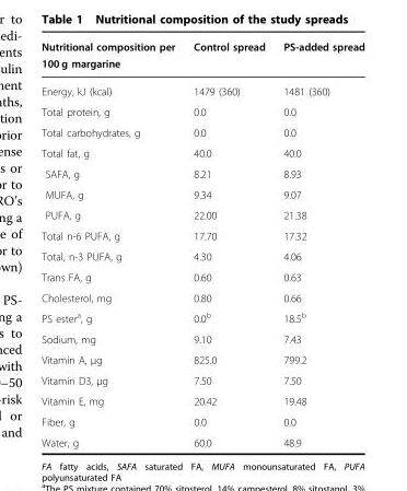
<table><thead><tr><td>Nutritional composition per 100 g margarine</td><td>Control spread</td><td>PS-added spread</td></tr></thead><tbody><tr><td>Energy, kJ (kcal)</td><td>1479 (360)</td><td>1481 (360)</td></tr><tr><td>Total protein, g</td><td>0.0</td><td>0.0</td></tr><tr><td>Total carbohydrates, g</td><td>0.0</td><td>0.0</td></tr><tr><td>Total fat, g</td><td>40.0</td><td>40.0</td></tr><tr><td>SAFA, g</td><td>8.21</td><td>8.93</td></tr><tr><td>MUFA, g</td><td>9.34</td><td>9.07</td></tr><tr><td>PUFA, g</td><td>22.00</td><td>21.38</td></tr><tr><td>Total n-6 PUFA, g</td><td>17.70</td><td>17.32</td></tr><tr><td>Total, n-3 PUFA, g</td><td>4.30</td><td>4.06</td></tr><tr><td>Trans FA, g</td><td>0.60</td><td>0.63</td></tr><tr><td>Cholesterol, mg</td><td>0.80</td><td>0.66</td></tr><tr><td>PS ester<sup>a</sup>, g</td><td>0.0<sup>b</sup></td><td>18.5<sup>b</sup></td></tr><tr><td>Sodium, mg</td><td>9.10</td><td>7.43</td></tr><tr><td>Vitamin A, μg</td><td>825.0</td><td>799.2</td></tr><tr><td>Vitamin D3, μg</td><td>7.50</td><td>7.50</td></tr><tr><td>Vitamin E, mg</td><td>20.42</td><td>19.48</td></tr><tr><td>Fiber, g</td><td>0.0</td><td>0.0</td></tr><tr><td>Water, g</td><td>60.0</td><td>48.9</td></tr></tbody></table>